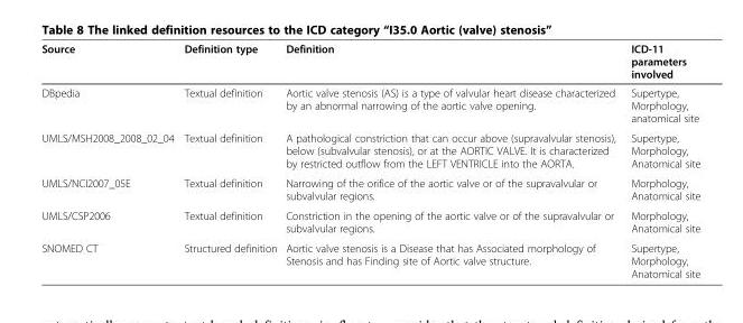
<table><thead><tr><td>Source</td><td>Definition type</td><td>Definition</td><td>ICD-11 parameters involved</td></tr></thead><tbody><tr><td>DBpedia</td><td>Textual definition</td><td>Aortic valve stenosis (AS) is a type of valvular heart disease characterized by an abnormal narrowing of the aortic valve opening.</td><td>Supertype, Morphology, anatomical site</td></tr><tr><td>UMLS/MSH2008_2008_02_04</td><td>Textual definition</td><td>A pathological constriction that can occur above (supravalvular stenosis), below (subvalvular stenosis), or at the AORTIC VALVE. It is characterized by restricted outflow from the LEFT VENTRICLE into the AORTA.</td><td>Supertype, Morphology, Anatomical site</td></tr><tr><td>UMLS/NCI2007_05E</td><td>Textual definition</td><td>Narrowing of the orifice of the aortic valve or of the supravalvular or subvalvular regions.</td><td>Morphology, Anatomical site</td></tr><tr><td>UMLS/CSP2006</td><td>Textual definition</td><td>Constriction in the opening of the aortic valve or of the supravalvular or subvalvular regions.</td><td>Morphology, Anatomical site</td></tr><tr><td>SNOMED CT</td><td>Structured definition</td><td>Aortic valve stenosis is a Disease that has Associated morphology of Stenosis and has Finding site of Aortic valve structure.</td><td>Supertype, Morphology, Anatomical site</td></tr></tbody></table>